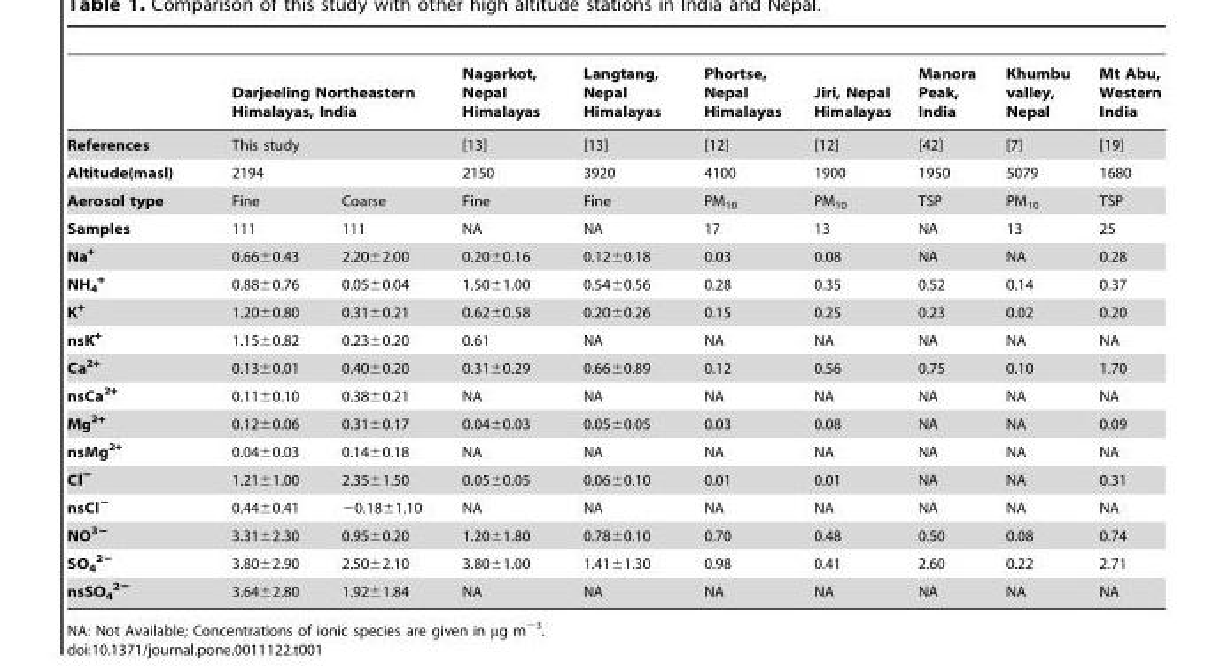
<table><thead><tr><td rowspan="2">References</td><td colspan="2">Darjeeling Northeastern Himalayas, India</td><td rowspan="2">Nagarkot, Nepal Himalayas [13]</td><td rowspan="2">Langtang, Nepal Himalayas [13]</td><td rowspan="2">Phortse, Nepal Himalayas [12]</td><td rowspan="2">Jiri, Nepal Himalayas [12]</td><td rowspan="2">Manora Peak, India [42]</td><td rowspan="2">Khumbu valley, Nepal [7]</td><td rowspan="2">Mt Abu, Western India [19]</td></tr><tr><td>This study</td><td></td></tr></thead><tbody><tr><td>Altitude(masl)</td><td>2194</td><td></td><td>2150</td><td>3920</td><td>4100</td><td>1900</td><td>1950</td><td>5079</td><td>1680</td></tr><tr><td>Aerosol type</td><td>Fine</td><td>Coarse</td><td>Fine</td><td>Fine</td><td>PM<sub>10</sub></td><td>PM<sub>10</sub></td><td>TSP</td><td>PM<sub>10</sub></td><td>TSP</td></tr><tr><td>Samples</td><td>111</td><td>111</td><td>NA</td><td>NA</td><td>17</td><td>13</td><td>NA</td><td>13</td><td>25</td></tr><tr><td>Na<sup>+</sup></td><td>0.66±0.43</td><td>2.20±2.00</td><td>0.20±0.16</td><td>0.12±0.18</td><td>0.03</td><td>0.08</td><td>NA</td><td>NA</td><td>0.28</td></tr><tr><td>NH<sub>4</sub> <sup>+</sup></td><td>0.88±0.76</td><td>0.05±0.04</td><td>1.50±1.00</td><td>0.54±0.56</td><td>0.28</td><td>0.35</td><td>0.52</td><td>0.14</td><td>0.37</td></tr><tr><td>K<sup>+</sup></td><td>1.20±0.80</td><td>0.31±0.21</td><td>0.62±0.58</td><td>0.20±0.26</td><td>0.15</td><td>0.25</td><td>0.23</td><td>0.02</td><td>0.20</td></tr><tr><td>nsK<sup>+</sup></td><td>1.15±0.82</td><td>0.23±0.20</td><td>0.61</td><td>NA</td><td>NA</td><td>NA</td><td>NA</td><td>NA</td><td>NA</td></tr><tr><td>Ca<sup>2+</sup></td><td>0.13±0.01</td><td>0.40±0.20</td><td>0.31±0.29</td><td>0.66±0.89</td><td>0.12</td><td>0.56</td><td>0.75</td><td>0.10</td><td>1.70</td></tr><tr><td>nsCa<sup>2+</sup></td><td>0.11±0.10</td><td>0.38±0.21</td><td>NA</td><td>NA</td><td>NA</td><td>NA</td><td>NA</td><td>NA</td><td>NA</td></tr><tr><td>Mg<sup>2+</sup></td><td>0.12±0.06</td><td>0.31±0.17</td><td>0.04±0.03</td><td>0.05±0.05</td><td>0.03</td><td>0.08</td><td>NA</td><td>NA</td><td>0.09</td></tr><tr><td>nsMg<sup>2+</sup></td><td>0.04±0.03</td><td>0.14±0.18</td><td>NA</td><td>NA</td><td>NA</td><td>NA</td><td>NA</td><td>NA</td><td>NA</td></tr><tr><td>Cl<sup>−</sup></td><td>1.21±1.00</td><td>2.35±1.50</td><td>0.05±0.05</td><td>0.06±0.10</td><td>0.01</td><td>0.01</td><td>NA</td><td>NA</td><td>0.31</td></tr><tr><td>nsCl<sup>−</sup></td><td>0.44±0.41</td><td>−0.18±1.10</td><td>NA</td><td>NA</td><td>NA</td><td>NA</td><td>NA</td><td>NA</td><td>NA</td></tr><tr><td>NO<sup>3−</sup></td><td>3.31±2.30</td><td>0.95±0.20</td><td>1.20±1.80</td><td>0.78±0.10</td><td>0.70</td><td>0.48</td><td>0.50</td><td>0.08</td><td>0.74</td></tr><tr><td>SO<sub>4</sub> <sup>2−</sup></td><td>3.80±2.90</td><td>2.50±2.10</td><td>3.80±1.00</td><td>1.41±1.30</td><td>0.98</td><td>0.41</td><td>2.60</td><td>0.22</td><td>2.71</td></tr><tr><td>nsSO<sub>4</sub> <sup>2−</sup></td><td>3.64±2.80</td><td>1.92±1.84</td><td>NA</td><td>NA</td><td>NA</td><td>NA</td><td>NA</td><td>NA</td><td>NA</td></tr></tbody></table>